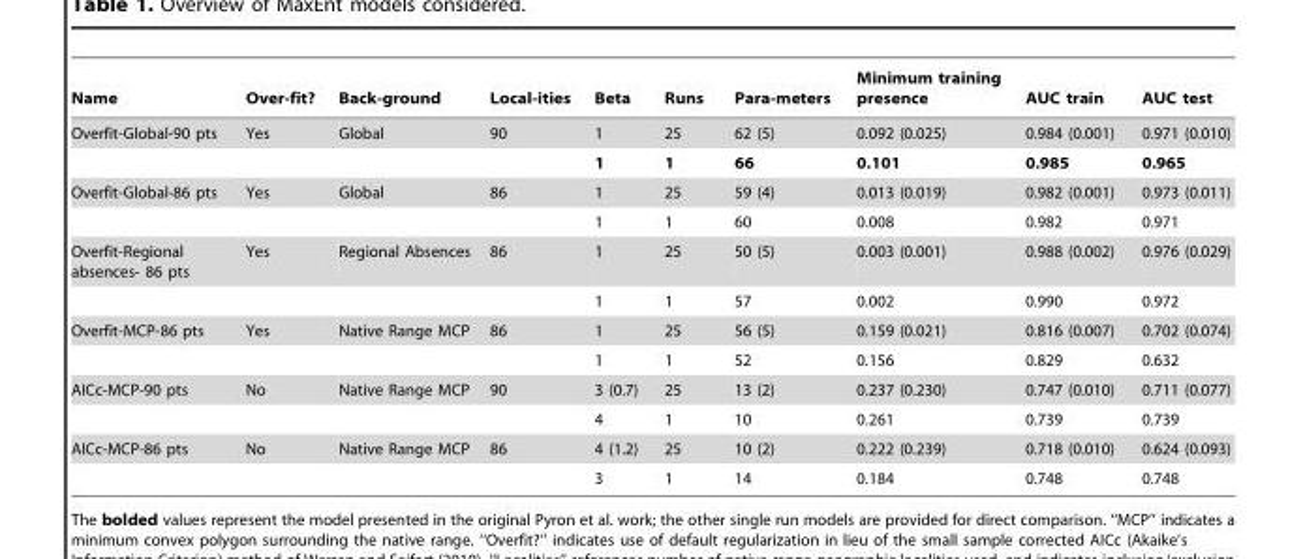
<table><thead><tr><td>Name</td><td>Over-fit?</td><td>Back-ground</td><td>Local-ities</td><td>Beta</td><td>Runs</td><td>Para-meters</td><td>Minimum training presence</td><td>AUC train</td><td>AUC test</td></tr></thead><tbody><tr><td rowspan="2">Overfit-Global-90 pts</td><td>Yes</td><td>Global</td><td>90</td><td>1</td><td>25</td><td>62 (5)</td><td>0.092 (0.025)</td><td>0.984 (0.001)</td><td>0.971 (0.010)</td></tr><tr><td></td><td></td><td></td><td>1</td><td>1</td><td>66</td><td>0.101</td><td>0.985</td><td>0.965</td></tr><tr><td rowspan="2">Overfit-Global-86 pts</td><td>Yes</td><td>Global</td><td>86</td><td>1</td><td>25</td><td>59 (4)</td><td>0.013 (0.019)</td><td>0.982 (0.001)</td><td>0.973 (0.011)</td></tr><tr><td></td><td></td><td></td><td>1</td><td>1</td><td>60</td><td>0.008</td><td>0.982</td><td>0.971</td></tr><tr><td rowspan="2">Overfit-Regional absences- 86 pts</td><td>Yes</td><td>Regional Absences</td><td>86</td><td>1</td><td>25</td><td>50 (5)</td><td>0.003 (0.001)</td><td>0.988 (0.002)</td><td>0.976 (0.029)</td></tr><tr><td></td><td></td><td></td><td>1</td><td>1</td><td>57</td><td>0.002</td><td>0.990</td><td>0.972</td></tr><tr><td rowspan="2">Overfit-MCP-86 pts</td><td>Yes</td><td>Native Range MCP</td><td>86</td><td>1</td><td>25</td><td>56 (5)</td><td>0.159 (0.021)</td><td>0.816 (0.007)</td><td>0.702 (0.074)</td></tr><tr><td></td><td></td><td></td><td>1</td><td>1</td><td>52</td><td>0.156</td><td>0.829</td><td>0.632</td></tr><tr><td rowspan="2">AICc-MCP-90 pts</td><td>No</td><td>Native Range MCP</td><td>90</td><td>3 (0.7)</td><td>25</td><td>13 (2)</td><td>0.237 (0.230)</td><td>0.747 (0.010)</td><td>0.711 (0.077)</td></tr><tr><td></td><td></td><td></td><td>4</td><td>1</td><td>10</td><td>0.261</td><td>0.739</td><td>0.739</td></tr><tr><td rowspan="2">AICc-MCP-86 pts</td><td>No</td><td>Native Range MCP</td><td>86</td><td>4 (1.2)</td><td>25</td><td>10 (2)</td><td>0.222 (0.239)</td><td>0.718 (0.010)</td><td>0.624 (0.093)</td></tr><tr><td></td><td></td><td></td><td>3</td><td>1</td><td>14</td><td>0.184</td><td>0.748</td><td>0.748</td></tr></tbody></table>